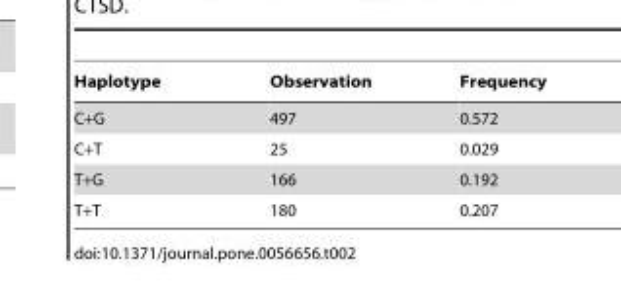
<table><thead><tr><td>Haplotype</td><td>Observation</td><td>Frequency</td></tr></thead><tbody><tr><td>C+G</td><td>497</td><td>0.572</td></tr><tr><td>C+T</td><td>25</td><td>0.029</td></tr><tr><td>T+G</td><td>166</td><td>0.192</td></tr><tr><td>T+T</td><td>180</td><td>0.207</td></tr></tbody></table>